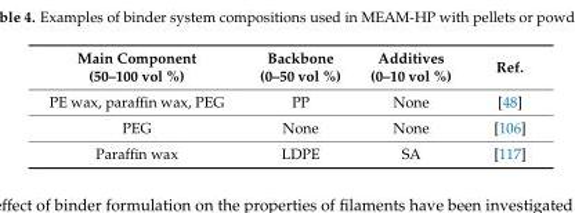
<table><thead><tr><td>Main Component (50–100 vol %)</td><td>Backbone (0–50 vol %)</td><td>Additives (0–10 vol %)</td><td>Ref.</td></tr></thead><tbody><tr><td>PE wax, paraffin wax, PEG</td><td>PP</td><td>None</td><td>[48]</td></tr><tr><td>PEG</td><td>None</td><td>None</td><td>[106]</td></tr><tr><td>Paraffin wax</td><td>LDPE</td><td>SA</td><td>[117]</td></tr></tbody></table>